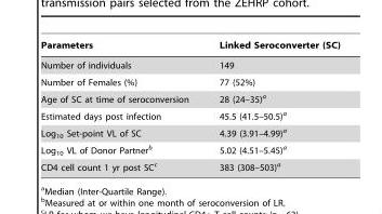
<table><thead><tr><td>Parameters</td><td>Linked Seroconverter (SC)</td></tr></thead><tbody><tr><td>Number of individuals</td><td>149</td></tr><tr><td>Number of Females (%)</td><td>77 (52%)</td></tr><tr><td>Age of SC at time of seroconversion</td><td>28 (24–35)<sup>a</sup></td></tr><tr><td>Estimated days post infection</td><td>45.5 (41.5–50.5)<sup>a</sup></td></tr><tr><td>Log<sub>10</sub> Set-point VL of SC</td><td>4.39 (3.91–4.99)<sup>a</sup></td></tr><tr><td>Log<sub>10</sub> VL of Donor Partner<sup>b</sup></td><td>5.02 (4.51–5.45)<sup>a</sup></td></tr><tr><td>CD4 cell count 1 yr post SC<sup>c</sup></td><td>383 (308–503)<sup>a</sup></td></tr></tbody></table>